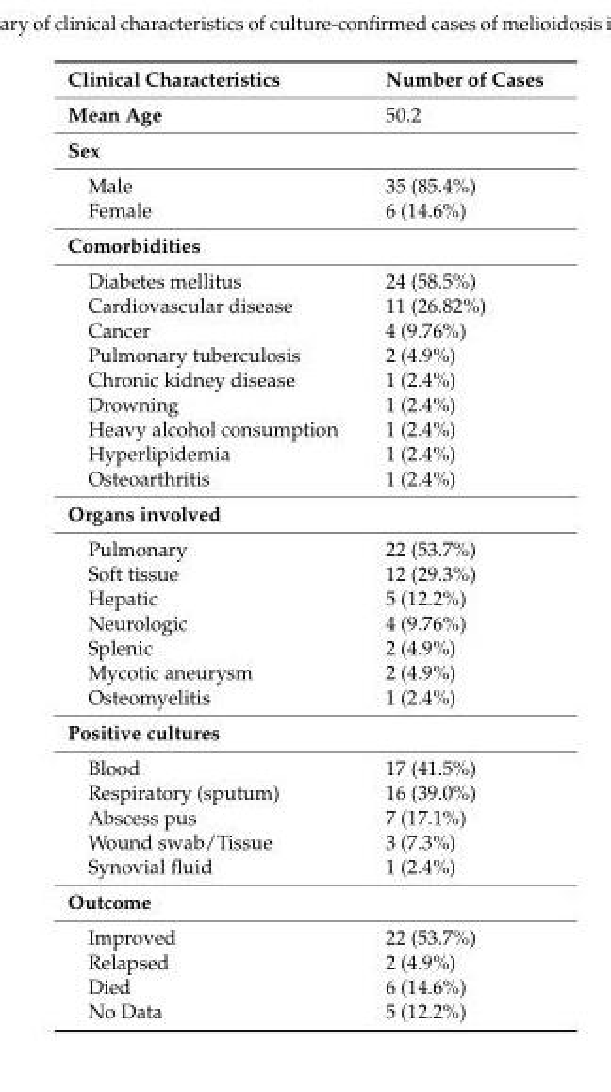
<table><thead><tr><td>Clinical Characteristics</td><td>Number of Cases</td></tr></thead><tbody><tr><td>Mean Age</td><td>50.2</td></tr><tr><td colspan="2">Sex</td></tr><tr><td>Male</td><td>35 (85.4%)</td></tr><tr><td>Female</td><td>6 (14.6%)</td></tr><tr><td colspan="2">Comorbidities</td></tr><tr><td>Diabetes mellitus</td><td>24 (58.5%)</td></tr><tr><td>Cardiovascular disease</td><td>11 (26.82%)</td></tr><tr><td>Cancer</td><td>4 (9.76%)</td></tr><tr><td>Pulmonary tuberculosis</td><td>2 (4.9%)</td></tr><tr><td>Chronic kidney disease</td><td>1 (2.4%)</td></tr><tr><td>Drowning</td><td>1 (2.4%)</td></tr><tr><td>Heavy alcohol consumption</td><td>1 (2.4%)</td></tr><tr><td>Hyperlipidemia</td><td>1 (2.4%)</td></tr><tr><td>Osteoarthritis</td><td>1 (2.4%)</td></tr><tr><td colspan="2">Organs involved</td></tr><tr><td>Pulmonary</td><td>22 (53.7%)</td></tr><tr><td>Soft tissue</td><td>12 (29.3%)</td></tr><tr><td>Hepatic</td><td>5 (12.2%)</td></tr><tr><td>Neurologic</td><td>4 (9.76%)</td></tr><tr><td>Splenic</td><td>2 (4.9%)</td></tr><tr><td>Mycotic aneurysm</td><td>2 (4.9%)</td></tr><tr><td>Osteomyelitis</td><td>1 (2.4%)</td></tr><tr><td colspan="2">Positive cultures</td></tr><tr><td>Blood</td><td>17 (41.5%)</td></tr><tr><td>Respiratory (sputum)</td><td>16 (39.0%)</td></tr><tr><td>Abscess pus</td><td>7 (17.1%)</td></tr><tr><td>Wound swab/Tissue</td><td>3 (7.3%)</td></tr><tr><td>Synovial fluid</td><td>1 (2.4%)</td></tr><tr><td colspan="2">Outcome</td></tr><tr><td>Improved</td><td>22 (53.7%)</td></tr><tr><td>Relapsed</td><td>2 (4.9%)</td></tr><tr><td>Died</td><td>6 (14.6%)</td></tr><tr><td>No Data</td><td>5 (12.2%)</td></tr></tbody></table>